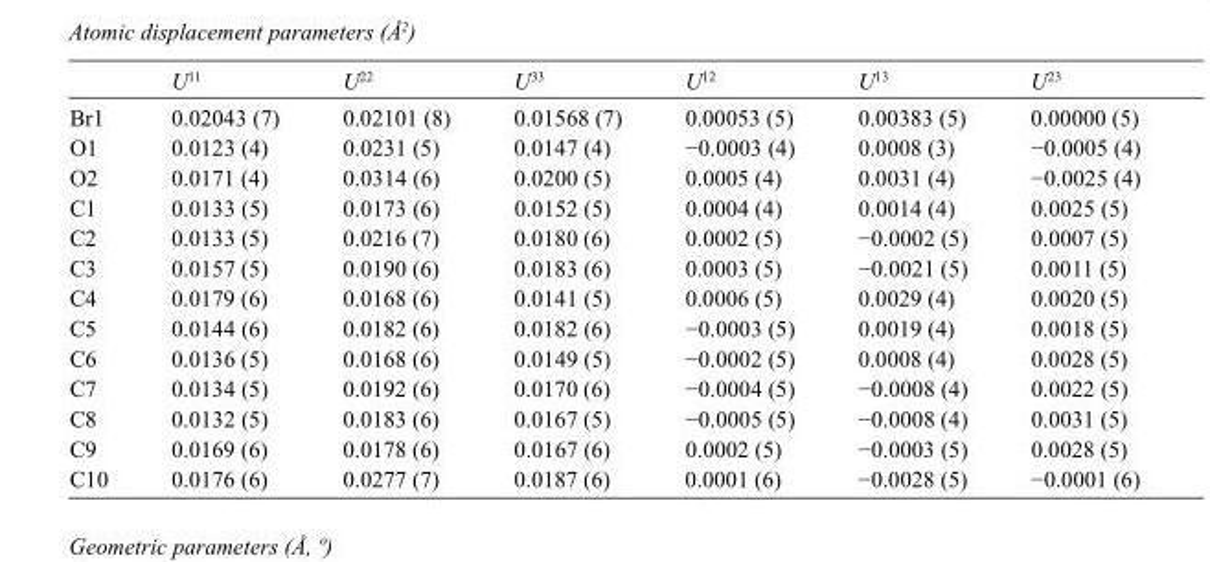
<table><thead><tr><td></td><td>U<sup>11</sup></td><td>U<sup>22</sup></td><td>U<sup>33</sup></td><td>U<sup>12</sup></td><td>U<sup>13</sup></td><td>U<sup>23</sup></td></tr></thead><tbody><tr><td>Br1</td><td>0.02043 (7)</td><td>0.02101 (8)</td><td>0.01568 (7)</td><td>0.00053 (5)</td><td>0.00383 (5)</td><td>0.00000 (5)</td></tr><tr><td>O1</td><td>0.0123 (4)</td><td>0.0231 (5)</td><td>0.0147 (4)</td><td>−0.0003 (4)</td><td>0.0008 (3)</td><td>−0.0005 (4)</td></tr><tr><td>O2</td><td>0.0171 (4)</td><td>0.0314 (6)</td><td>0.0200 (5)</td><td>0.0005 (4)</td><td>0.0031 (4)</td><td>−0.0025 (4)</td></tr><tr><td>C1</td><td>0.0133 (5)</td><td>0.0173 (6)</td><td>0.0152 (5)</td><td>0.0004 (4)</td><td>0.0014 (4)</td><td>0.0025 (5)</td></tr><tr><td>C2</td><td>0.0133 (5)</td><td>0.0216 (7)</td><td>0.0180 (6)</td><td>0.0002 (5)</td><td>−0.0002 (5)</td><td>0.0007 (5)</td></tr><tr><td>C3</td><td>0.0157 (5)</td><td>0.0190 (6)</td><td>0.0183 (6)</td><td>0.0003 (5)</td><td>−0.0021 (5)</td><td>0.0011 (5)</td></tr><tr><td>C4</td><td>0.0179 (6)</td><td>0.0168 (6)</td><td>0.0141 (5)</td><td>0.0006 (5)</td><td>0.0029 (4)</td><td>0.0020 (5)</td></tr><tr><td>C5</td><td>0.0144 (6)</td><td>0.0182 (6)</td><td>0.0182 (6)</td><td>−0.0003 (5)</td><td>0.0019 (4)</td><td>0.0018 (5)</td></tr><tr><td>C6</td><td>0.0136 (5)</td><td>0.0168 (6)</td><td>0.0149 (5)</td><td>−0.0002 (5)</td><td>0.0008 (4)</td><td>0.0028 (5)</td></tr><tr><td>C7</td><td>0.0134 (5)</td><td>0.0192 (6)</td><td>0.0170 (6)</td><td>−0.0004 (5)</td><td>−0.0008 (4)</td><td>0.0022 (5)</td></tr><tr><td>C8</td><td>0.0132 (5)</td><td>0.0183 (6)</td><td>0.0167 (5)</td><td>−0.0005 (5)</td><td>−0.0008 (4)</td><td>0.0031 (5)</td></tr><tr><td>C9</td><td>0.0169 (6)</td><td>0.0178 (6)</td><td>0.0167 (6)</td><td>0.0002 (5)</td><td>−0.0003 (5)</td><td>0.0028 (5)</td></tr><tr><td>C10</td><td>0.0176 (6)</td><td>0.0277 (7)</td><td>0.0187 (6)</td><td>0.0001 (6)</td><td>−0.0028 (5)</td><td>−0.0001 (6)</td></tr></tbody></table>